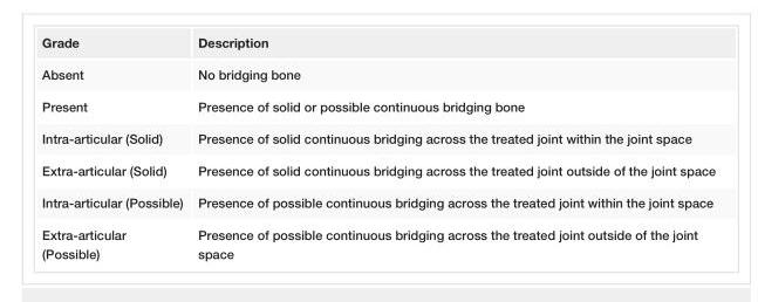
<table><tbody><tr><td>Grade</td><td>Description</td></tr><tr><td>Absent</td><td>No bridging bone</td></tr><tr><td>Present</td><td>Presence of solid or possible continuous bridging bone</td></tr><tr><td>Intra-articular (Solid)</td><td>Presence of solid continuous bridging across the treated joint within the joint space</td></tr><tr><td>Extra-articular (Solid)</td><td>Presence of solid continuous bridging across the treated joint outside of the joint space</td></tr><tr><td>Intra-articular (Possible)</td><td>Presence of possible continuous bridging across the treated joint within the joint space</td></tr><tr><td>Extra-articular (Possible)</td><td>Presence of possible continuous bridging across the treated joint outside of the joint space</td></tr></tbody></table>